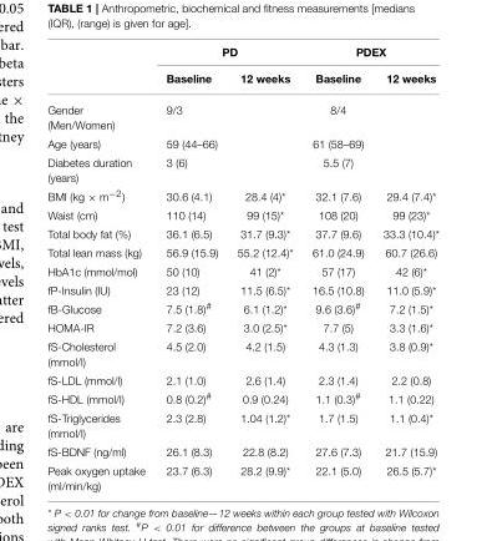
<table><thead><tr><td rowspan="2"></td><td colspan="2">PD</td><td colspan="2">PDEX</td></tr><tr><td>Baseline</td><td>12 weeks</td><td>Baseline</td><td>12 weeks</td></tr></thead><tbody><tr><td>Gender (Men/Women)</td><td>9/3</td><td></td><td>8/4</td><td></td></tr><tr><td>Age (years)</td><td>59 (44–66)</td><td></td><td>61 (58–69)</td><td></td></tr><tr><td>Diabetes duration (years)</td><td>3 (6)</td><td></td><td>5.5 (7)</td><td></td></tr><tr><td>BMI (kg × m<sup>−2</sup>)</td><td>30.6 (4.1)</td><td>28.4 (4)*</td><td>32.1 (7.6)</td><td>29.4 (7.4)*</td></tr><tr><td>Waist (cm)</td><td>110 (14)</td><td>99 (15)*</td><td>108 (20)</td><td>99 (23)*</td></tr><tr><td>Total body fat (%)</td><td>36.1 (6.5)</td><td>31.7 (9.3)*</td><td>37.7 (9.6)</td><td>33.3 (10.4)*</td></tr><tr><td>Total lean mass (kg)</td><td>56.9 (15.9)</td><td>55.2 (12.4)*</td><td>61.0 (24.9)</td><td>60.7 (26.6)</td></tr><tr><td>HbA1c (mmol/mol)</td><td>50 (10)</td><td>41 (2)*</td><td>57 (17)</td><td>42 (6)*</td></tr><tr><td>fP-Insulin (IU)</td><td>23 (12)</td><td>11.5 (6.5)*</td><td>16.5 (10.8)</td><td>11.0 (5.9)*</td></tr><tr><td>fB-Glucose</td><td>7.5 (1.8)<sup>#</sup></td><td>6.1 (1.2)*</td><td>9.6 (3.6)<sup>#</sup></td><td>7.2 (1.5)*</td></tr><tr><td>HOMA-IR</td><td>7.2 (3.6)</td><td>3.0 (2.5)*</td><td>7.7 (5)</td><td>3.3 (1.6)*</td></tr><tr><td>fS-Cholesterol (mmol/l)</td><td>4.5 (2.0)</td><td>4.2 (1.5)</td><td>4.3 (1.3)</td><td>3.8 (0.9)*</td></tr><tr><td>fS-LDL (mmol/l)</td><td>2.1 (1.0)</td><td>2.6 (1.4)</td><td>2.3 (1.4)</td><td>2.2 (0.8)</td></tr><tr><td>fS-HDL (mmol/l)</td><td>0.8 (0.2)<sup>#</sup></td><td>0.9 (0.24)</td><td>1.1 (0.3)<sup>#</sup></td><td>1.1 (0.22)</td></tr><tr><td>fS-Triglycerides (mmol/l)</td><td>2.3 (2.8)</td><td>1.04 (1.2)*</td><td>1.7 (1.5)</td><td>1.1 (0.4)*</td></tr><tr><td>fS-BDNF (ng/ml)</td><td>26.1 (8.3)</td><td>22.8 (8.2)</td><td>27.6 (7.3)</td><td>21.7 (15.9)</td></tr><tr><td>Peak oxygen uptake (ml/min/kg)</td><td>23.7 (6.3)</td><td>28.2 (9.9)*</td><td>22.1 (5.0)</td><td>26.5 (5.7)*</td></tr></tbody></table>